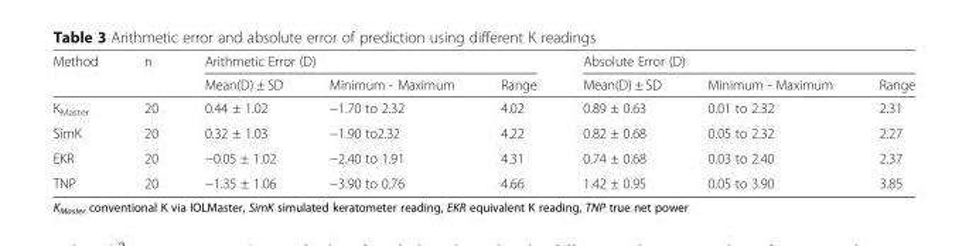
<table><thead><tr><td rowspan="2">Method</td><td rowspan="2">n</td><td colspan="3">Arithmetic Error (D)</td><td colspan="3">Absolute Error (D)</td></tr><tr><td>Mean(D) ± SD</td><td>Minimum - Maximum</td><td>Range</td><td>Mean(D) ± SD</td><td>Minimum - Maximum</td><td>Range</td></tr></thead><tbody><tr><td>K<sub>Master</sub></td><td>20</td><td>0.44 ± 1.02</td><td>−1.70 to 2.32</td><td>4.02</td><td>0.89 ± 0.63</td><td>0.01 to 2.32</td><td>2.31</td></tr><tr><td>SimK</td><td>20</td><td>0.32 ± 1.03</td><td>−1.90 to2.32</td><td>4.22</td><td>0.82 ± 0.68</td><td>0.05 to 2.32</td><td>2.27</td></tr><tr><td>EKR</td><td>20</td><td>−0.05 ± 1.02</td><td>−2.40 to 1.91</td><td>4.31</td><td>0.74 ± 0.68</td><td>0.03 to 2.40</td><td>2.37</td></tr><tr><td>TNP</td><td>20</td><td>−1.35 ± 1.06</td><td>−3.90 to 0.76</td><td>4.66</td><td>1.42 ± 0.95</td><td>0.05 to 3.90</td><td>3.85</td></tr></tbody></table>